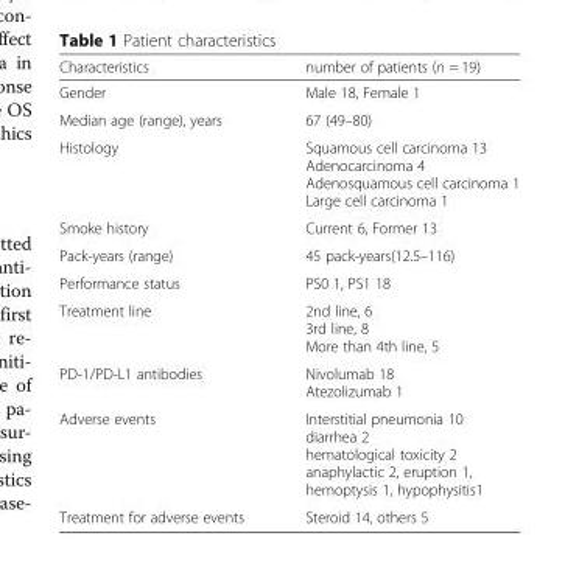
<table><thead><tr><td>Characteristics</td><td>number of patients (n = 19)</td></tr></thead><tbody><tr><td>Gender</td><td>Male 18, Female 1</td></tr><tr><td>Median age (range), years</td><td>67 (49–80)</td></tr><tr><td>Histology</td><td>Squamous cell carcinoma 13 Adenocarcinoma 4 Adenosquamous cell carcinoma 1 Large cell carcinoma 1</td></tr><tr><td>Smoke history</td><td>Current 6, Former 13</td></tr><tr><td>Pack-years (range)</td><td>45 pack-years(12.5–116)</td></tr><tr><td>Performance status</td><td>PS0 1, PS1 18</td></tr><tr><td>Treatment line</td><td>2nd line, 6 3rd line, 8 More than 4th line, 5</td></tr><tr><td>PD-1/PD-L1 antibodies</td><td>Nivolumab 18 Atezolizumab 1</td></tr><tr><td>Adverse events</td><td>Interstitial pneumonia 10 diarrhea 2 hematological toxicity 2 anaphylactic 2, eruption 1, hemoptysis 1, hypophysitis1</td></tr><tr><td>Treatment for adverse events</td><td>Steroid 14, others 5</td></tr></tbody></table>